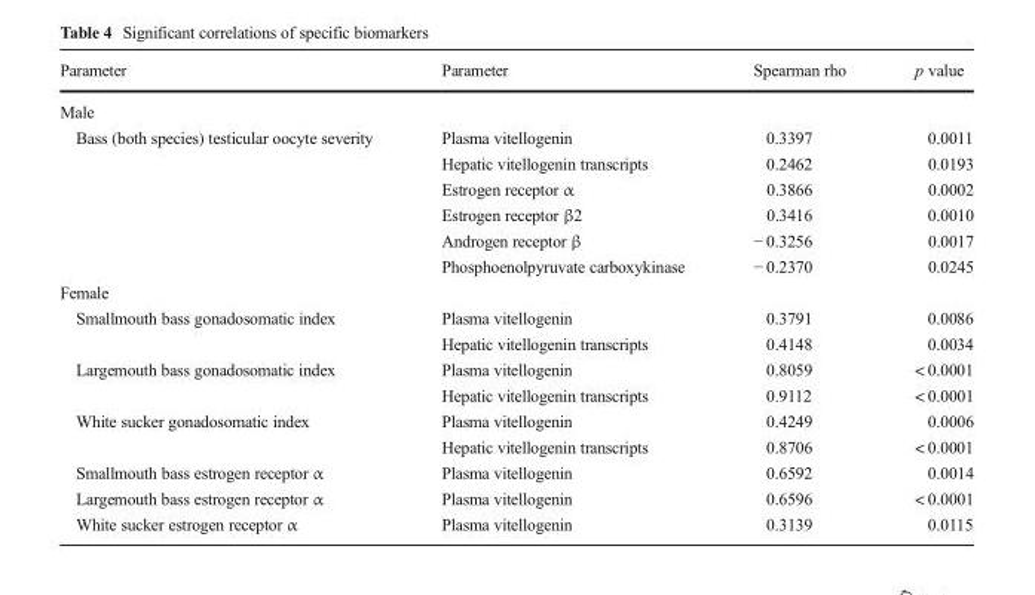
<table><thead><tr><td>Parameter</td><td>Parameter</td><td>Spearman rho</td><td>p value</td></tr></thead><tbody><tr><td colspan="4">Male</td></tr><tr><td rowspan="6">Bass (both species) testicular oocyte severity</td><td>Plasma vitellogenin</td><td>0.3397</td><td>0.0011</td></tr><tr><td>Hepatic vitellogenin transcripts</td><td>0.2462</td><td>0.0193</td></tr><tr><td>Estrogen receptor α</td><td>0.3866</td><td>0.0002</td></tr><tr><td>Estrogen receptor β2</td><td>0.3416</td><td>0.0010</td></tr><tr><td>Androgen receptor β</td><td>− 0.3256</td><td>0.0017</td></tr><tr><td>Phosphoenolpyruvate carboxykinase</td><td>− 0.2370</td><td>0.0245</td></tr><tr><td colspan="4">Female</td></tr><tr><td rowspan="2">Smallmouth bass gonadosomatic index</td><td>Plasma vitellogenin</td><td>0.3791</td><td>0.0086</td></tr><tr><td>Hepatic vitellogenin transcripts</td><td>0.4148</td><td>0.0034</td></tr><tr><td rowspan="2">Largemouth bass gonadosomatic index</td><td>Plasma vitellogenin</td><td>0.8059</td><td>&lt; 0.0001</td></tr><tr><td>Hepatic vitellogenin transcripts</td><td>0.9112</td><td>&lt; 0.0001</td></tr><tr><td rowspan="2">White sucker gonadosomatic index</td><td>Plasma vitellogenin</td><td>0.4249</td><td>0.0006</td></tr><tr><td>Hepatic vitellogenin transcripts</td><td>0.8706</td><td>&lt; 0.0001</td></tr><tr><td>Smallmouth bass estrogen receptor α</td><td>Plasma vitellogenin</td><td>0.6592</td><td>0.0014</td></tr><tr><td>Largemouth bass estrogen receptor α</td><td>Plasma vitellogenin</td><td>0.6596</td><td>&lt; 0.0001</td></tr><tr><td>White sucker estrogen receptor α</td><td>Plasma vitellogenin</td><td>0.3139</td><td>0.0115</td></tr></tbody></table>